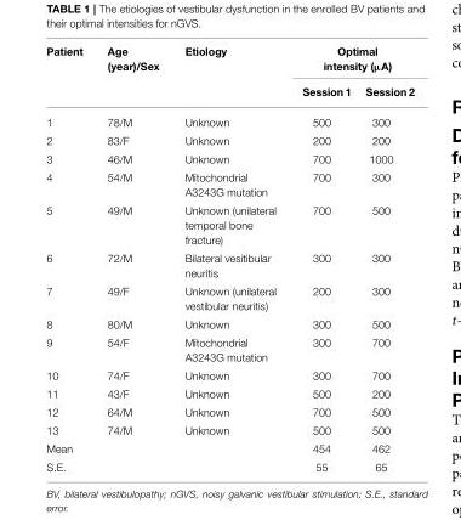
<table><thead><tr><td rowspan="2">Patient</td><td rowspan="2">Age (year)/Sex</td><td rowspan="2">Etiology</td><td colspan="2">Optimal intensity (µA)</td></tr><tr><td>Session 1</td><td>Session 2</td></tr></thead><tbody><tr><td>1</td><td>78/M</td><td>Unknown</td><td>500</td><td>300</td></tr><tr><td>2</td><td>83/F</td><td>Unknown</td><td>200</td><td>200</td></tr><tr><td>3</td><td>46/M</td><td>Unknown</td><td>700</td><td>1000</td></tr><tr><td>4</td><td>54/M</td><td>Mitochondrial A3243G mutation</td><td>700</td><td>300</td></tr><tr><td>5</td><td>49/M</td><td>Unknown (unilateral temporal bone fracture)</td><td>700</td><td>500</td></tr><tr><td>6</td><td>72/M</td><td>Bilateral vesitibular neuritis</td><td>300</td><td>300</td></tr><tr><td>7</td><td>49/F</td><td>Unknown (unilateral vestibular neuritis)</td><td>200</td><td>300</td></tr><tr><td>8</td><td>80/M</td><td>Unknown</td><td>300</td><td>500</td></tr><tr><td>9</td><td>54/F</td><td>Mitochondrial A3243G mutation</td><td>300</td><td>700</td></tr><tr><td>10</td><td>74/F</td><td>Unknown</td><td>300</td><td>700</td></tr><tr><td>11</td><td>43/F</td><td>Unknown</td><td>500</td><td>200</td></tr><tr><td>12</td><td>64/M</td><td>Unknown</td><td>700</td><td>500</td></tr><tr><td>13</td><td>74/M</td><td>Unknown</td><td>500</td><td>500</td></tr><tr><td>Mean</td><td></td><td></td><td>454</td><td>462</td></tr><tr><td>S.E.</td><td></td><td></td><td>55</td><td>65</td></tr></tbody></table>